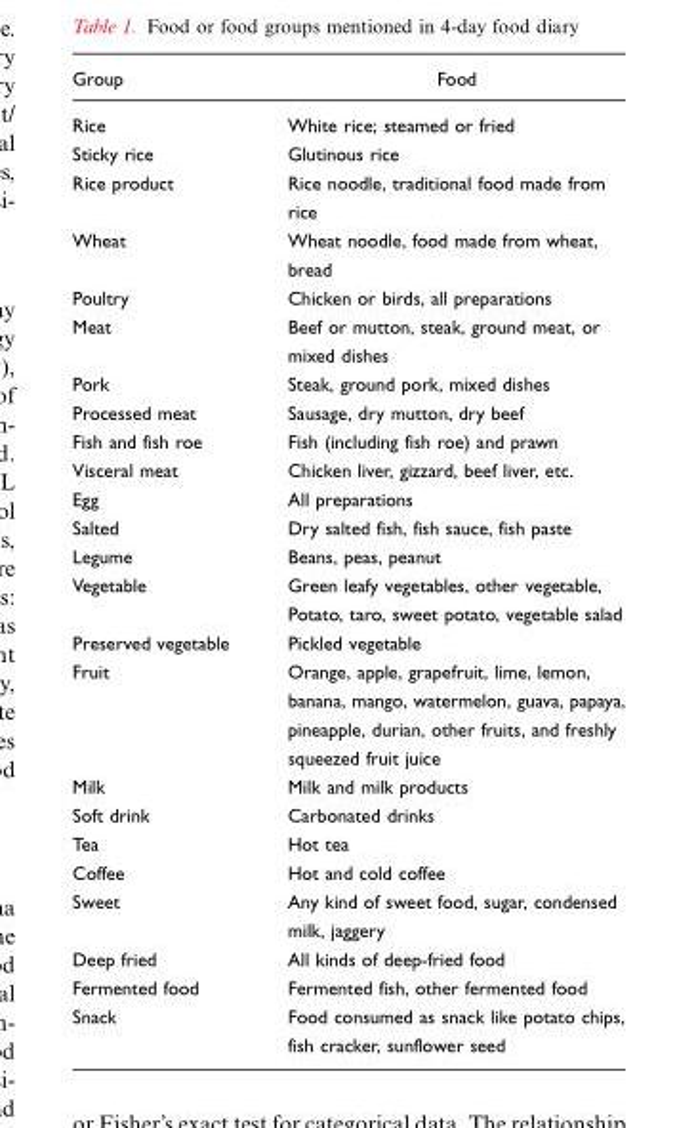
<table><thead><tr><td>Group</td><td>Food</td></tr></thead><tbody><tr><td>Rice</td><td>White rice; steamed or fried</td></tr><tr><td>Sticky rice</td><td>Glutinous rice</td></tr><tr><td>Rice product</td><td>Rice noodle, traditional food made from rice</td></tr><tr><td>Wheat</td><td>Wheat noodle, food made from wheat, bread</td></tr><tr><td>Poultry</td><td>Chicken or birds, all preparations</td></tr><tr><td>Meat</td><td>Beef or mutton, steak, ground meat, or mixed dishes</td></tr><tr><td>Pork</td><td>Steak, ground pork, mixed dishes</td></tr><tr><td>Processed meat</td><td>Sausage, dry mutton, dry beef</td></tr><tr><td>Fish and fish roe</td><td>Fish (including fish roe) and prawn</td></tr><tr><td>Visceral meat</td><td>Chicken liver, gizzard, beef liver, etc.</td></tr><tr><td>Egg</td><td>All preparations</td></tr><tr><td>Salted</td><td>Dry salted fish, fish sauce, fish paste</td></tr><tr><td>Legume</td><td>Beans, peas, peanut</td></tr><tr><td>Vegetable</td><td>Green leafy vegetables, other vegetable, Potato, taro, sweet potato, vegetable salad</td></tr><tr><td>Preserved vegetable</td><td>Pickled vegetable</td></tr><tr><td>Fruit</td><td>Orange, apple, grapefruit, lime, lemon, banana, mango, watermelon, guava, papaya, pineapple, durian, other fruits, and freshly squeezed fruit juice</td></tr><tr><td>Milk</td><td>Milk and milk products</td></tr><tr><td>Soft drink</td><td>Carbonated drinks</td></tr><tr><td>Tea</td><td>Hot tea</td></tr><tr><td>Coffee</td><td>Hot and cold coffee</td></tr><tr><td>Sweet</td><td>Any kind of sweet food, sugar, condensed milk, jaggery</td></tr><tr><td>Deep fried</td><td>All kinds of deep-fried food</td></tr><tr><td>Fermented food</td><td>Fermented fish, other fermented food</td></tr><tr><td>Snack</td><td>Food consumed as snack like potato chips, fish cracker, sunflower seed</td></tr></tbody></table>